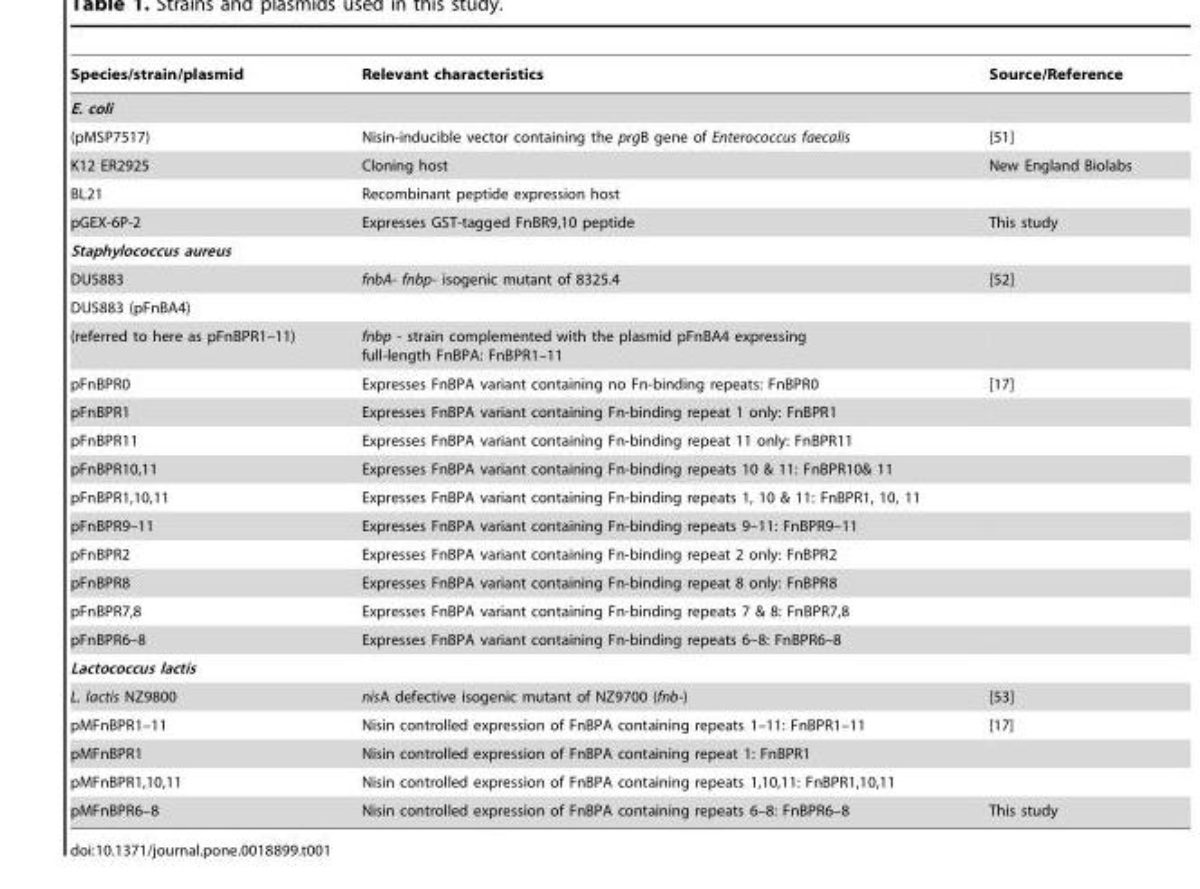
<table><thead><tr><td>Species/strain/plasmid</td><td>Relevant characteristics</td><td>Source/Reference</td></tr></thead><tbody><tr><td colspan="3">E. coli</td></tr><tr><td>(pMSP7517)</td><td>Nisin-inducible vector containing the prgB gene of Enterococcus faecalis</td><td>[51]</td></tr><tr><td>K12 ER2925</td><td>Cloning host</td><td>New England Biolabs</td></tr><tr><td>BL21</td><td>Recombinant peptide expression host</td><td></td></tr><tr><td>pGEX-6P-2</td><td>Expresses GST-tagged FnBR9,10 peptide</td><td>This study</td></tr><tr><td colspan="3">Staphylococcus aureus</td></tr><tr><td>DU5883</td><td>fnbA- fnbp- isogenic mutant of 8325.4</td><td>[52]</td></tr><tr><td colspan="3">DU5883 (pFnBA4)</td></tr><tr><td>(referred to here as pFnBPR1–11)</td><td>fnbp - strain complemented with the plasmid pFnBA4 expressing full-length FnBPA: FnBPR1–11</td><td></td></tr><tr><td>pFnBPR0</td><td>Expresses FnBPA variant containing no Fn-binding repeats: FnBPR0</td><td>[17]</td></tr><tr><td>pFnBPR1</td><td>Expresses FnBPA variant containing Fn-binding repeat 1 only: FnBPR1</td><td></td></tr><tr><td>pFnBPR11</td><td>Expresses FnBPA variant containing Fn-binding repeat 11 only: FnBPR11</td><td></td></tr><tr><td>pFnBPR10,11</td><td>Expresses FnBPA variant containing Fn-binding repeats 10 &amp; 11: FnBPR10&amp; 11</td><td></td></tr><tr><td>pFnBPR1,10,11</td><td>Expresses FnBPA variant containing Fn-binding repeats 1, 10 &amp; 11: FnBPR1, 10, 11</td><td></td></tr><tr><td>pFnBPR9–11</td><td>Expresses FnBPA variant containing Fn-binding repeats 9–11: FnBPR9–11</td><td></td></tr><tr><td>pFnBPR2</td><td>Expresses FnBPA variant containing Fn-binding repeat 2 only: FnBPR2</td><td></td></tr><tr><td>pFnBPR8</td><td>Expresses FnBPA variant containing Fn-binding repeat 8 only: FnBPR8</td><td></td></tr><tr><td>pFnBPR7,8</td><td>Expresses FnBPA variant containing Fn-binding repeats 7 &amp; 8: FnBPR7,8</td><td></td></tr><tr><td>pFnBPR6–8</td><td>Expresses FnBPA variant containing Fn-binding repeats 6–8: FnBPR6–8</td><td></td></tr><tr><td colspan="3">Lactococcus lactis</td></tr><tr><td>L. lactis NZ9800</td><td>nisA defective isogenic mutant of NZ9700 (fnb-)</td><td>[53]</td></tr><tr><td>pMFnBPR1–11</td><td>Nisin controlled expression of FnBPA containing repeats 1–11: FnBPR1–11</td><td>[17]</td></tr><tr><td>pMFnBPR1</td><td>Nisin controlled expression of FnBPA containing repeat 1: FnBPR1</td><td></td></tr><tr><td>pMFnBPR1,10,11</td><td>Nisin controlled expression of FnBPA containing repeats 1,10,11: FnBPR1,10,11</td><td></td></tr><tr><td>pMFnBPR6–8</td><td>Nisin controlled expression of FnBPA containing repeats 6–8: FnBPR6–8</td><td>This study</td></tr></tbody></table>